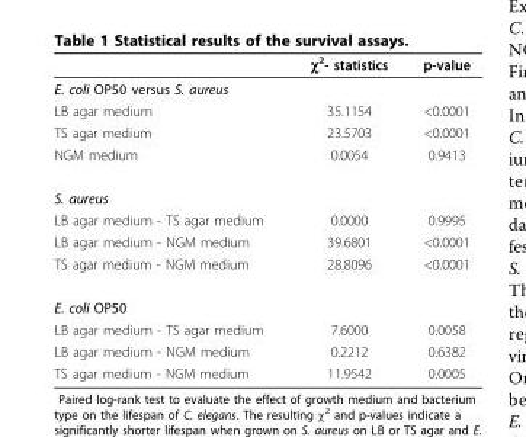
<table><thead><tr><td></td><td>χ<sup>2</sup>- statistics</td><td>p-value</td></tr></thead><tbody><tr><td colspan="3">E. coli OP50 versus S. aureus</td></tr><tr><td>LB agar medium</td><td>35.1154</td><td>&lt;0.0001</td></tr><tr><td>TS agar medium</td><td>23.5703</td><td>&lt;0.0001</td></tr><tr><td>NGM medium</td><td>0.0054</td><td>0.9413</td></tr><tr><td colspan="3">S. aureus</td></tr><tr><td>LB agar medium - TS agar medium</td><td>0.0000</td><td>0.9995</td></tr><tr><td>LB agar medium - NGM medium</td><td>39.6801</td><td>&lt;0.0001</td></tr><tr><td>TS agar medium - NGM medium</td><td>28.8096</td><td>&lt;0.0001</td></tr><tr><td colspan="3">E. coli OP50</td></tr><tr><td>LB agar medium - TS agar medium</td><td>7.6000</td><td>0.0058</td></tr><tr><td>LB agar medium - NGM medium</td><td>0.2212</td><td>0.6382</td></tr><tr><td>TS agar medium - NGM medium</td><td>11.9542</td><td>0.0005</td></tr></tbody></table>